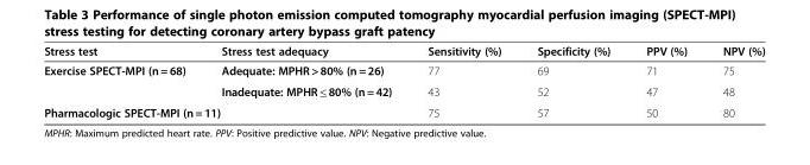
<table><thead><tr><td>Stress test</td><td>Stress test adequacy</td><td>Sensitivity (%)</td><td>Specificity (%)</td><td>PPV (%)</td><td>NPV (%)</td></tr></thead><tbody><tr><td rowspan="2">Exercise SPECT-MPI (n = 68)</td><td>Adequate: MPHR &gt; 80% (n = 26)</td><td>77</td><td>69</td><td>71</td><td>75</td></tr><tr><td>Inadequate: MPHR ≤ 80% (n = 42)</td><td>43</td><td>52</td><td>47</td><td>48</td></tr><tr><td colspan="2">Pharmacologic SPECT-MPI (n = 11)</td><td>75</td><td>57</td><td>50</td><td>80</td></tr></tbody></table>